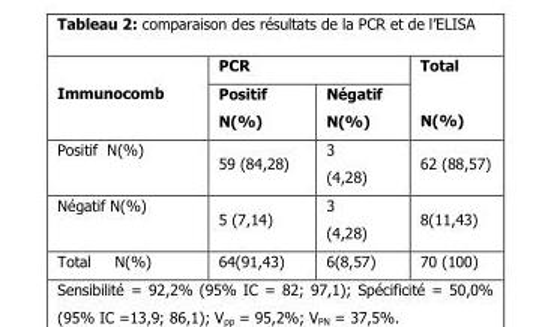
<table><thead><tr><td rowspan="2">Immunocomb</td><td colspan="2">PCR</td><td rowspan="2">Total N(%)</td></tr><tr><td>Positif N(%)</td><td>Négatif N(%)</td></tr></thead><tbody><tr><td>Positif N(%)</td><td>59 (84,28)</td><td>3 (4,28)</td><td>62 (88,57)</td></tr><tr><td>Négatif N(%)</td><td>5 (7,14)</td><td>3 (4,28)</td><td>8(11,43)</td></tr><tr><td>Total N(%)</td><td>64(91,43)</td><td>6(8,57)</td><td>70 (100)</td></tr></tbody></table>